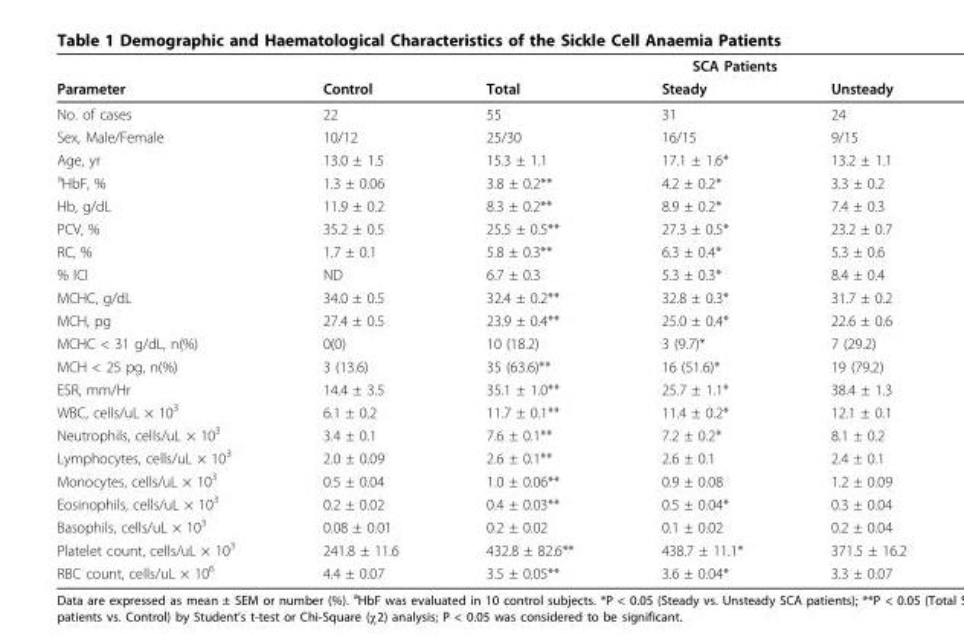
<table><thead><tr><td rowspan="2">Parameter</td><td rowspan="2">Control</td><td colspan="3">SCA Patients</td></tr><tr><td>Total</td><td>Steady</td><td>Unsteady</td></tr></thead><tbody><tr><td>No. of cases</td><td>22</td><td>55</td><td>31</td><td>24</td></tr><tr><td>Sex, Male/Female</td><td>10/12</td><td>25/30</td><td>16/15</td><td>9/15</td></tr><tr><td>Age, yr</td><td>13.0 ± 1.5</td><td>15.3 ± 1.1</td><td>17.1 ± 1.6*</td><td>13.2 ± 1.1</td></tr><tr><td><sup>a</sup>HbF, %</td><td>1.3 ± 0.06</td><td>3.8 ± 0.2**</td><td>4.2 ± 0.2*</td><td>3.3 ± 0.2</td></tr><tr><td>Hb, g/dL</td><td>11.9 ± 0.2</td><td>8.3 ± 0.2**</td><td>8.9 ± 0.2*</td><td>7.4 ± 0.3</td></tr><tr><td>PCV, %</td><td>35.2 ± 0.5</td><td>25.5 ± 0.5**</td><td>27.3 ± 0.5*</td><td>23.2 ± 0.7</td></tr><tr><td>RC, %</td><td>1.7 ± 0.1</td><td>5.8 ± 0.3**</td><td>6.3 ± 0.4*</td><td>5.3 ± 0.6</td></tr><tr><td>% ICI</td><td>ND</td><td>6.7 ± 0.3</td><td>5.3 ± 0.3*</td><td>8.4 ± 0.4</td></tr><tr><td>MCHC, g/dL</td><td>34.0 ± 0.5</td><td>32.4 ± 0.2**</td><td>32.8 ± 0.3*</td><td>31.7 ± 0.2</td></tr><tr><td>MCH, pg</td><td>27.4 ± 0.5</td><td>23.9 ± 0.4**</td><td>25.0 ± 0.4*</td><td>22.6 ± 0.6</td></tr><tr><td>MCHC &lt; 31 g/dL, n(%)</td><td>0(0)</td><td>10 (18.2)</td><td>3 (9.7)*</td><td>7 (29.2)</td></tr><tr><td>MCH &lt; 25 pg, n(%)</td><td>3 (13.6)</td><td>35 (63.6)**</td><td>16 (51.6)*</td><td>19 (79.2)</td></tr><tr><td>ESR, mm/Hr</td><td>14.4 ± 3.5</td><td>35.1 ± 1.0**</td><td>25.7 ± 1.1*</td><td>38.4 ± 1.3</td></tr><tr><td>WBC, cells/uL × 10<sup>3</sup></td><td>6.1 ± 0.2</td><td>11.7 ± 0.1**</td><td>11.4 ± 0.2*</td><td>12.1 ± 0.1</td></tr><tr><td>Neutrophils, cells/uL × 10<sup>3</sup></td><td>3.4 ± 0.1</td><td>7.6 ± 0.1**</td><td>7.2 ± 0.2*</td><td>8.1 ± 0.2</td></tr><tr><td>Lymphocytes, cells/uL × 10<sup>3</sup></td><td>2.0 ± 0.09</td><td>2.6 ± 0.1**</td><td>2.6 ± 0.1</td><td>2.4 ± 0.1</td></tr><tr><td>Monocytes, cells/uL × 10<sup>3</sup></td><td>0.5 ± 0.04</td><td>1.0 ± 0.06**</td><td>0.9 ± 0.08</td><td>1.2 ± 0.09</td></tr><tr><td>Eosinophils, cells/uL × 10<sup>3</sup></td><td>0.2 ± 0.02</td><td>0.4 ± 0.03**</td><td>0.5 ± 0.04*</td><td>0.3 ± 0.04</td></tr><tr><td>Basophils, cells/uL × 10<sup>3</sup></td><td>0.08 ± 0.01</td><td>0.2 ± 0.02</td><td>0.1 ± 0.02</td><td>0.2 ± 0.04</td></tr><tr><td>Platelet count, cells/uL × 10<sup>3</sup></td><td>241.8 ± 11.6</td><td>432.8 ± 82.6**</td><td>438.7 ± 11.1*</td><td>371.5 ± 16.2</td></tr><tr><td>RBC count, cells/uL × 10<sup>6</sup></td><td>4.4 ± 0.07</td><td>3.5 ± 0.05**</td><td>3.6 ± 0.04*</td><td>3.3 ± 0.07</td></tr></tbody></table>